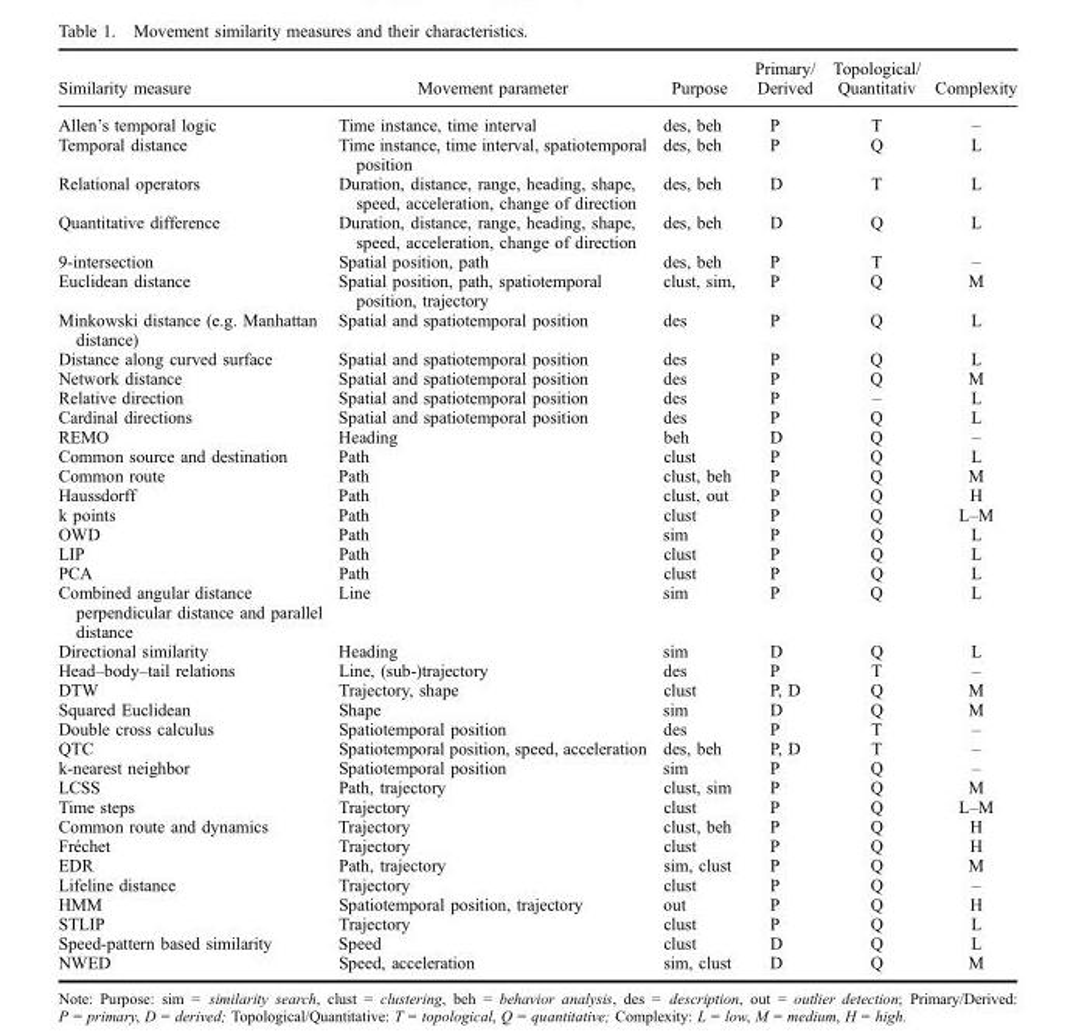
<table><thead><tr><td>Similarity measure</td><td>Movement parameter</td><td>Purpose</td><td>Primary/ Derived</td><td>Topological/ Quantitativ</td><td>Complexity</td></tr></thead><tbody><tr><td>Allen’s temporal logic</td><td>Time instance, time interval</td><td>des, beh</td><td>P</td><td>T</td><td>–</td></tr><tr><td>Temporal distance</td><td>Time instance, time interval, spatiotemporal position</td><td>des, beh</td><td>P</td><td>Q</td><td>L</td></tr><tr><td>Relational operators</td><td>Duration, distance, range, heading, shape, speed, acceleration, change of direction</td><td>des, beh</td><td>D</td><td>T</td><td>L</td></tr><tr><td>Quantitative difference</td><td>Duration, distance, range, heading, shape, speed, acceleration, change of direction</td><td>des, beh</td><td>D</td><td>Q</td><td>L</td></tr><tr><td>9-intersection</td><td>Spatial position, path</td><td>des, beh</td><td>P</td><td>T</td><td>–</td></tr><tr><td>Euclidean distance</td><td>Spatial position, path, spatiotemporal position, trajectory</td><td>clust, sim,</td><td>P</td><td>Q</td><td>M</td></tr><tr><td>Minkowski distance (e.g. Manhattan distance)</td><td>Spatial and spatiotemporal position</td><td>des</td><td>P</td><td>Q</td><td>L</td></tr><tr><td>Distance along curved surface</td><td>Spatial and spatiotemporal position</td><td>des</td><td>P</td><td>Q</td><td>L</td></tr><tr><td>Network distance</td><td>Spatial and spatiotemporal position</td><td>des</td><td>P</td><td>Q</td><td>M</td></tr><tr><td>Relative direction</td><td>Spatial and spatiotemporal position</td><td>des</td><td>P</td><td>–</td><td>L</td></tr><tr><td>Cardinal directions</td><td>Spatial and spatiotemporal position</td><td>des</td><td>P</td><td>Q</td><td>L</td></tr><tr><td>REMO</td><td>Heading</td><td>beh</td><td>D</td><td>Q</td><td>–</td></tr><tr><td>Common source and destination</td><td>Path</td><td>clust</td><td>P</td><td>Q</td><td>L</td></tr><tr><td>Common route</td><td>Path</td><td>clust, beh</td><td>P</td><td>Q</td><td>M</td></tr><tr><td>Haussdorff</td><td>Path</td><td>clust, out</td><td>P</td><td>Q</td><td>H</td></tr><tr><td>k points</td><td>Path</td><td>clust</td><td>P</td><td>Q</td><td>L–M</td></tr><tr><td>OWD</td><td>Path</td><td>sim</td><td>P</td><td>Q</td><td>L</td></tr><tr><td>LIP</td><td>Path</td><td>clust</td><td>P</td><td>Q</td><td>L</td></tr><tr><td>PCA</td><td>Path</td><td>clust</td><td>P</td><td>Q</td><td>L</td></tr><tr><td>Combined angular distance perpendicular distance and parallel distance</td><td>Line</td><td>sim</td><td>P</td><td>Q</td><td>L</td></tr><tr><td>Directional similarity</td><td>Heading</td><td>sim</td><td>D</td><td>Q</td><td>L</td></tr><tr><td>Head–body–tail relations</td><td>Line, (sub-)trajectory</td><td>des</td><td>P</td><td>T</td><td>–</td></tr><tr><td>DTW</td><td>Trajectory, shape</td><td>clust</td><td>P, D</td><td>Q</td><td>M</td></tr><tr><td>Squared Euclidean</td><td>Shape</td><td>sim</td><td>D</td><td>Q</td><td>M</td></tr><tr><td>Double cross calculus</td><td>Spatiotemporal position</td><td>des</td><td>P</td><td>T</td><td>–</td></tr><tr><td>QTC</td><td>Spatiotemporal position, speed, acceleration</td><td>des, beh</td><td>P, D</td><td>T</td><td>–</td></tr><tr><td>k-nearest neighbor</td><td>Spatiotemporal position</td><td>sim</td><td>P</td><td>Q</td><td>–</td></tr><tr><td>LCSS</td><td>Path, trajectory</td><td>clust, sim</td><td>P</td><td>Q</td><td>M</td></tr><tr><td>Time steps</td><td>Trajectory</td><td>clust</td><td>P</td><td>Q</td><td>L–M</td></tr><tr><td>Common route and dynamics</td><td>Trajectory</td><td>clust, beh</td><td>P</td><td>Q</td><td>H</td></tr><tr><td>Fréchet</td><td>Trajectory</td><td>clust</td><td>P</td><td>Q</td><td>H</td></tr><tr><td>EDR</td><td>Path, trajectory</td><td>sim, clust</td><td>P</td><td>Q</td><td>M</td></tr><tr><td>Lifeline distance</td><td>Trajectory</td><td>clust</td><td>P</td><td>Q</td><td>–</td></tr><tr><td>HMM</td><td>Spatiotemporal position, trajectory</td><td>out</td><td>P</td><td>Q</td><td>H</td></tr><tr><td>STLIP</td><td>Trajectory</td><td>clust</td><td>P</td><td>Q</td><td>L</td></tr><tr><td>Speed-pattern based similarity</td><td>Speed</td><td>clust</td><td>D</td><td>Q</td><td>L</td></tr><tr><td>NWED</td><td>Speed, acceleration</td><td>sim, clust</td><td>D</td><td>Q</td><td>M</td></tr></tbody></table>